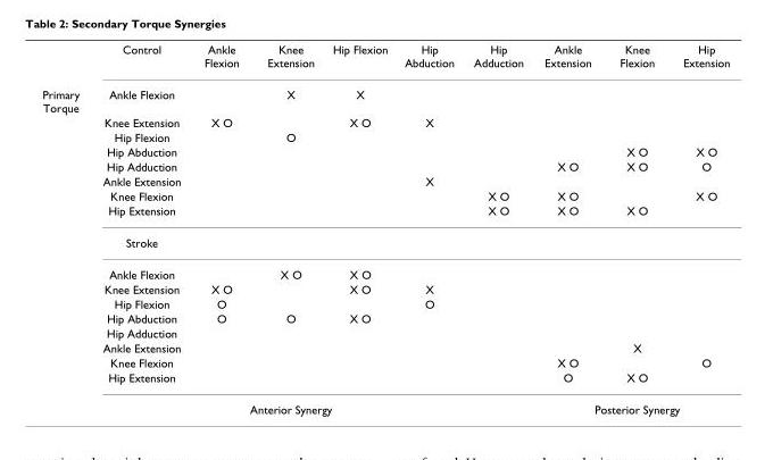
<table><thead><tr><td></td><td>Control</td><td>Ankle Flexion</td><td>Knee Extension</td><td>Hip Flexion</td><td>Hip Abduction</td><td>Hip Adduction</td><td>Ankle Extension</td><td>Knee Flexion</td><td>Hip Extension</td></tr></thead><tbody><tr><td rowspan="18">Primary Torque</td><td>Ankle Flexion</td><td></td><td>X</td><td>X</td><td></td><td></td><td></td><td></td><td></td></tr><tr><td>Knee Extension</td><td>X O</td><td></td><td>X O</td><td>X</td><td></td><td></td><td></td><td></td></tr><tr><td>Hip Flexion</td><td></td><td>O</td><td></td><td></td><td></td><td></td><td></td><td></td></tr><tr><td>Hip Abduction</td><td></td><td></td><td></td><td></td><td></td><td></td><td>X O</td><td>X O</td></tr><tr><td>Hip Adduction</td><td></td><td></td><td></td><td></td><td></td><td>X O</td><td>X O</td><td>O</td></tr><tr><td>Ankle Extension</td><td></td><td></td><td></td><td>X</td><td></td><td></td><td></td><td></td></tr><tr><td>Knee Flexion</td><td></td><td></td><td></td><td></td><td>X O</td><td>X O</td><td></td><td>X O</td></tr><tr><td>Hip Extension</td><td></td><td></td><td></td><td></td><td>X O</td><td>X O</td><td>X O</td><td></td></tr><tr><td>Stroke</td><td></td><td></td><td></td><td></td><td></td><td></td><td></td><td></td></tr><tr><td>Ankle Flexion</td><td></td><td>X O</td><td>X O</td><td></td><td></td><td></td><td></td><td></td></tr><tr><td>Knee Extension</td><td>X O</td><td></td><td>X O</td><td>X</td><td></td><td></td><td></td><td></td></tr><tr><td>Hip Flexion</td><td>O</td><td></td><td></td><td>O</td><td></td><td></td><td></td><td></td></tr><tr><td>Hip Abduction</td><td>O</td><td>O</td><td>X O</td><td></td><td></td><td></td><td></td><td></td></tr><tr><td>Hip Adduction</td><td></td><td></td><td></td><td></td><td></td><td></td><td></td><td></td></tr><tr><td>Ankle Extension</td><td></td><td></td><td></td><td></td><td></td><td></td><td>X</td><td></td></tr><tr><td>Knee Flexion</td><td></td><td></td><td></td><td></td><td></td><td>X O</td><td></td><td>O</td></tr><tr><td>Hip Extension</td><td></td><td></td><td></td><td></td><td></td><td>O</td><td>X O</td><td></td></tr><tr><td></td><td colspan="3">Anterior Synergy</td><td></td><td></td><td colspan="3">Posterior Synergy</td></tr></tbody></table>